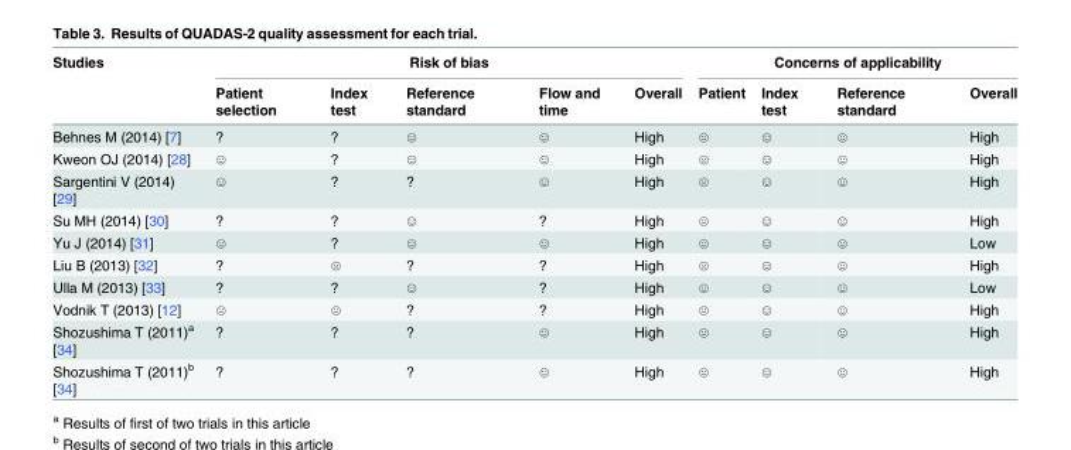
<table><thead><tr><td rowspan="2">Studies</td><td colspan="5">Risk of bias</td><td colspan="4">Concerns of applicability</td></tr><tr><td>Patient selection</td><td>Index test</td><td>Reference standard</td><td>Flow and time</td><td>Overall</td><td>Patient</td><td>Index test</td><td>Reference standard</td><td>Overall</td></tr></thead><tbody><tr><td>Behnes M (2014) [7]</td><td>?</td><td>?</td><td>☺</td><td>☺</td><td>High</td><td>☹</td><td>☺</td><td>☺</td><td>High</td></tr><tr><td>Kweon OJ (2014) [28]</td><td>☺</td><td>?</td><td>☺</td><td>☺</td><td>High</td><td>☹</td><td>☺</td><td>☺</td><td>High</td></tr><tr><td>Sargentini V (2014) [29]</td><td>☺</td><td>?</td><td>?</td><td>☺</td><td>High</td><td>☹</td><td>☺</td><td>☺</td><td>High</td></tr><tr><td>Su MH (2014) [30]</td><td>?</td><td>?</td><td>☺</td><td>?</td><td>High</td><td>☹</td><td>☺</td><td>☺</td><td>High</td></tr><tr><td>Yu J (2014) [31]</td><td>☺</td><td>?</td><td>☺</td><td>☺</td><td>High</td><td>☺</td><td>☺</td><td>☺</td><td>Low</td></tr><tr><td>Liu B (2013) [32]</td><td>?</td><td>☹</td><td>?</td><td>?</td><td>High</td><td>☹</td><td>☺</td><td>☺</td><td>High</td></tr><tr><td>Ulla M (2013) [33]</td><td>?</td><td>?</td><td>☺</td><td>?</td><td>High</td><td>☺</td><td>☺</td><td>☺</td><td>Low</td></tr><tr><td>Vodnik T (2013) [12]</td><td>☹</td><td>☹</td><td>?</td><td>?</td><td>High</td><td>☹</td><td>☺</td><td>☺</td><td>High</td></tr><tr><td>Shozushima T (2011)<sup>a</sup> [34]</td><td>?</td><td>?</td><td>?</td><td>☺</td><td>High</td><td>☹</td><td>☺</td><td>☺</td><td>High</td></tr><tr><td>Shozushima T (2011)<sup>b</sup> [34]</td><td>?</td><td>?</td><td>?</td><td>☺</td><td>High</td><td>☹</td><td>☺</td><td>☺</td><td>High</td></tr></tbody></table>